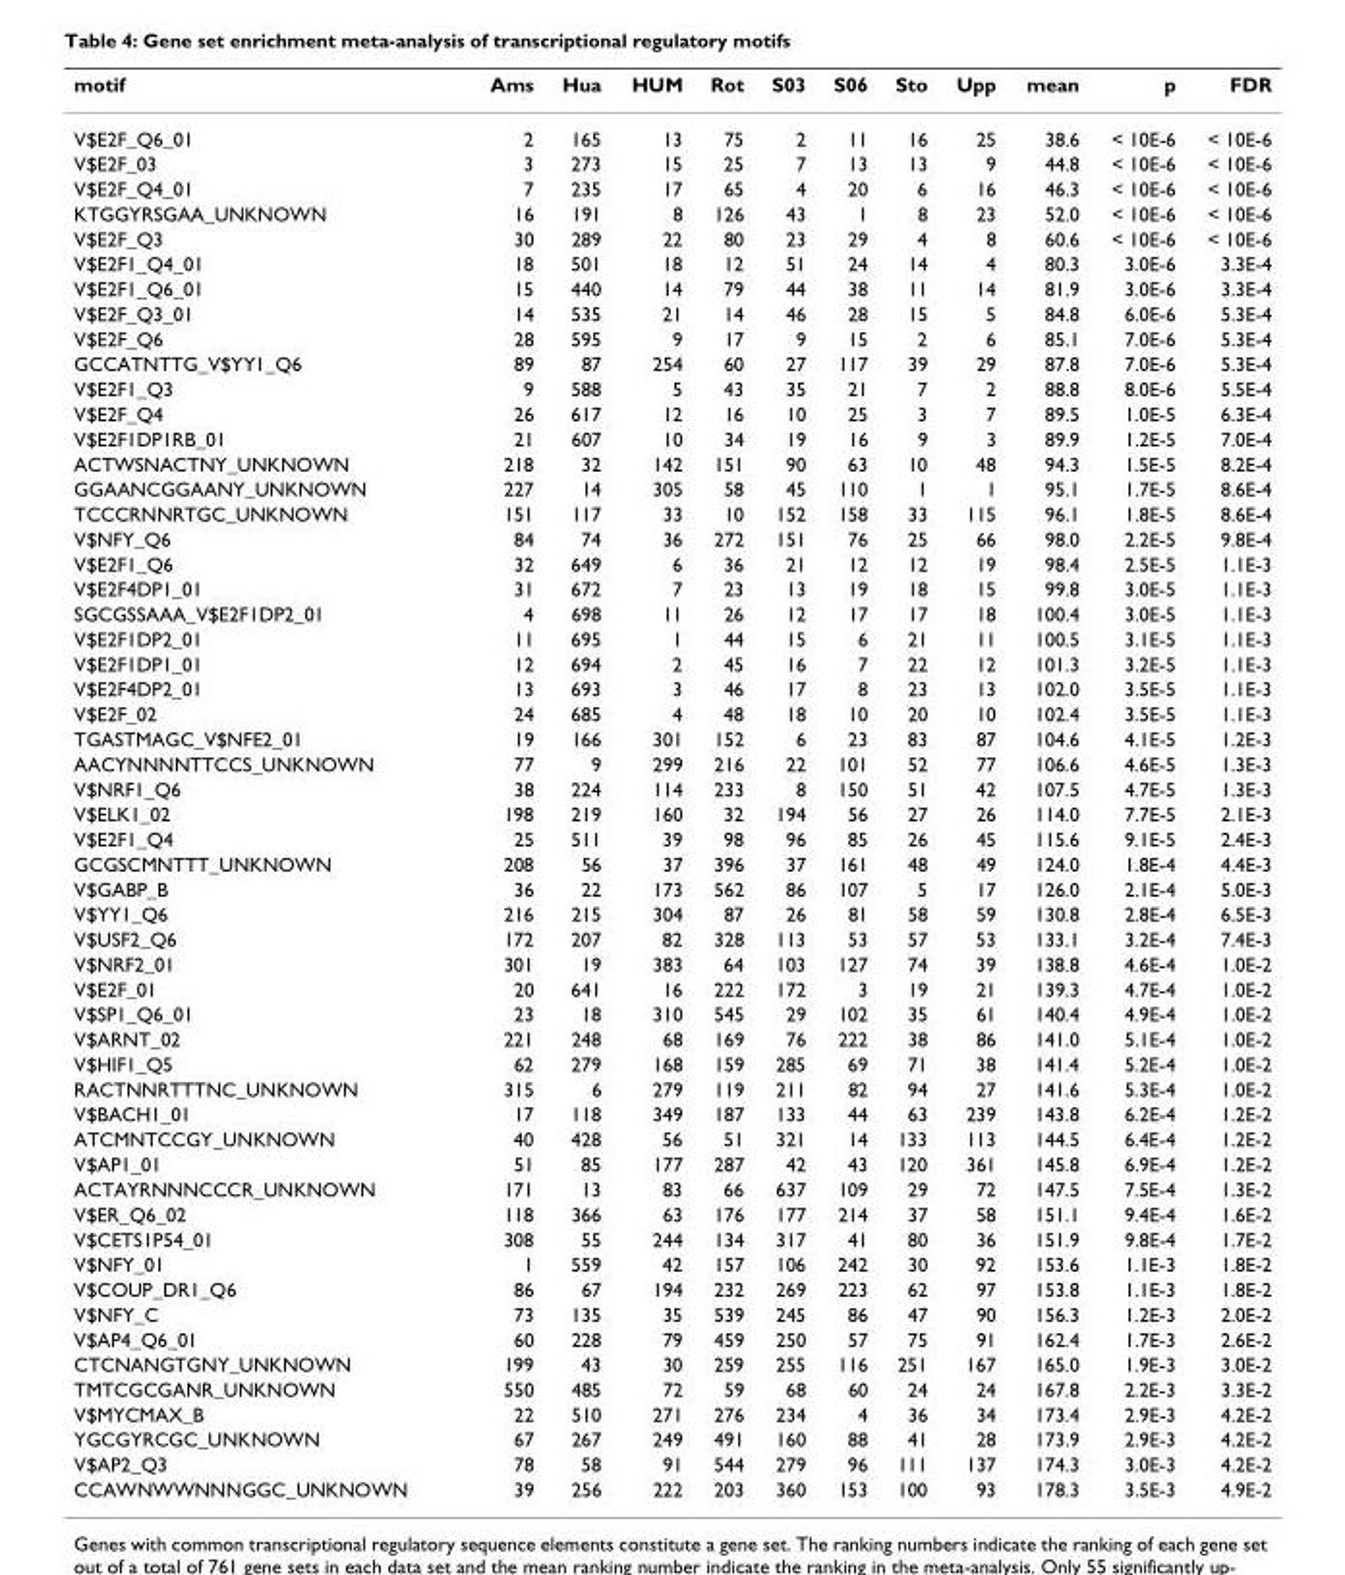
<table><thead><tr><td>motif</td><td>Ams</td><td>Hua</td><td>HUM</td><td>Rot</td><td>S03</td><td>S06</td><td>Sto</td><td>Upp</td><td>mean</td><td>p</td><td>FDR</td></tr></thead><tbody><tr><td>V$E2F_Q6_01</td><td>2</td><td>165</td><td>13</td><td>75</td><td>2</td><td>11</td><td>16</td><td>25</td><td>38.6</td><td>&lt; 10E-6</td><td>&lt; 10E-6</td></tr><tr><td>V$E2F_03</td><td>3</td><td>273</td><td>15</td><td>25</td><td>7</td><td>13</td><td>13</td><td>9</td><td>44.8</td><td>&lt; 10E-6</td><td>&lt; 10E-6</td></tr><tr><td>V$E2F_Q4_01</td><td>7</td><td>235</td><td>17</td><td>65</td><td>4</td><td>20</td><td>6</td><td>16</td><td>46.3</td><td>&lt; 10E-6</td><td>&lt; 10E-6</td></tr><tr><td>KTGGYRSGAA_UNKNOWN</td><td>16</td><td>191</td><td>8</td><td>126</td><td>43</td><td>1</td><td>8</td><td>23</td><td>52.0</td><td>&lt; 10E-6</td><td>&lt; 10E-6</td></tr><tr><td>V$E2F_Q3</td><td>30</td><td>289</td><td>22</td><td>80</td><td>23</td><td>29</td><td>4</td><td>8</td><td>60.6</td><td>&lt; 10E-6</td><td>&lt; 10E-6</td></tr><tr><td>V$E2F1_Q4_01</td><td>18</td><td>501</td><td>18</td><td>12</td><td>51</td><td>24</td><td>14</td><td>4</td><td>80.3</td><td>3.0E-6</td><td>3.3E-4</td></tr><tr><td>V$E2F1_Q6_01</td><td>15</td><td>440</td><td>14</td><td>79</td><td>44</td><td>38</td><td>11</td><td>14</td><td>81.9</td><td>3.0E-6</td><td>3.3E-4</td></tr><tr><td>V$E2F_Q3_01</td><td>14</td><td>535</td><td>21</td><td>14</td><td>46</td><td>28</td><td>15</td><td>5</td><td>84.8</td><td>6.0E-6</td><td>5.3E-4</td></tr><tr><td>V$E2F_Q6</td><td>28</td><td>595</td><td>9</td><td>17</td><td>9</td><td>15</td><td>2</td><td>6</td><td>85.1</td><td>7.0E-6</td><td>5.3E-4</td></tr><tr><td>GCCATNTTG_V$YY1_Q6</td><td>89</td><td>87</td><td>254</td><td>60</td><td>27</td><td>117</td><td>39</td><td>29</td><td>87.8</td><td>7.0E-6</td><td>5.3E-4</td></tr><tr><td>V$E2F1_Q3</td><td>9</td><td>588</td><td>5</td><td>43</td><td>35</td><td>21</td><td>7</td><td>2</td><td>88.8</td><td>8.0E-6</td><td>5.5E-4</td></tr><tr><td>V$E2F_Q4</td><td>26</td><td>617</td><td>12</td><td>16</td><td>10</td><td>25</td><td>3</td><td>7</td><td>89.5</td><td>1.0E-5</td><td>6.3E-4</td></tr><tr><td>V$E2F1DP1RB_01</td><td>21</td><td>607</td><td>10</td><td>34</td><td>19</td><td>16</td><td>9</td><td>3</td><td>89.9</td><td>1.2E-5</td><td>7.0E-4</td></tr><tr><td>ACTWSNACTNY_UNKNOWN</td><td>218</td><td>32</td><td>142</td><td>151</td><td>90</td><td>63</td><td>10</td><td>48</td><td>94.3</td><td>1.5E-5</td><td>8.2E-4</td></tr><tr><td>GGAANCGGAANY_UNKNOWN</td><td>227</td><td>14</td><td>305</td><td>58</td><td>45</td><td>110</td><td>1</td><td>1</td><td>95.1</td><td>1.7E-5</td><td>8.6E-4</td></tr><tr><td>TCCCRNNRTGC_UNKNOWN</td><td>151</td><td>117</td><td>33</td><td>10</td><td>152</td><td>158</td><td>33</td><td>115</td><td>96.1</td><td>1.8E-5</td><td>8.6E-4</td></tr><tr><td>V$NFY_Q6</td><td>84</td><td>74</td><td>36</td><td>272</td><td>151</td><td>76</td><td>25</td><td>66</td><td>98.0</td><td>2.2E-5</td><td>9.8E-4</td></tr><tr><td>V$E2F1_Q6</td><td>32</td><td>649</td><td>6</td><td>36</td><td>21</td><td>12</td><td>12</td><td>19</td><td>98.4</td><td>2.5E-5</td><td>1.1E-3</td></tr><tr><td>V$E2F4DP1_01</td><td>31</td><td>672</td><td>7</td><td>23</td><td>13</td><td>19</td><td>18</td><td>15</td><td>99.8</td><td>3.0E-5</td><td>1.1E-3</td></tr><tr><td>SGCGSSAAA_V$E2F1DP2_01</td><td>4</td><td>698</td><td>11</td><td>26</td><td>12</td><td>17</td><td>17</td><td>18</td><td>100.4</td><td>3.0E-5</td><td>1.1E-3</td></tr><tr><td>V$E2F1DP2_01</td><td>11</td><td>695</td><td>1</td><td>44</td><td>15</td><td>6</td><td>21</td><td>11</td><td>100.5</td><td>3.1E-5</td><td>1.1E-3</td></tr><tr><td>V$E2F1DP1_01</td><td>12</td><td>694</td><td>2</td><td>45</td><td>16</td><td>7</td><td>22</td><td>12</td><td>101.3</td><td>3.2E-5</td><td>1.1E-3</td></tr><tr><td>V$E2F4DP2_01</td><td>13</td><td>693</td><td>3</td><td>46</td><td>17</td><td>8</td><td>23</td><td>13</td><td>102.0</td><td>3.5E-5</td><td>1.1E-3</td></tr><tr><td>V$E2F_02</td><td>24</td><td>685</td><td>4</td><td>48</td><td>18</td><td>10</td><td>20</td><td>10</td><td>102.4</td><td>3.5E-5</td><td>1.1E-3</td></tr><tr><td>TGASTMAGC_V$NFE2_01</td><td>19</td><td>166</td><td>301</td><td>152</td><td>6</td><td>23</td><td>83</td><td>87</td><td>104.6</td><td>4.1E-5</td><td>1.2E-3</td></tr><tr><td>AACYNNNNTTCCS_UNKNOWN</td><td>77</td><td>9</td><td>299</td><td>216</td><td>22</td><td>101</td><td>52</td><td>77</td><td>106.6</td><td>4.6E-5</td><td>1.3E-3</td></tr><tr><td>V$NRF1_Q6</td><td>38</td><td>224</td><td>114</td><td>233</td><td>8</td><td>150</td><td>51</td><td>42</td><td>107.5</td><td>4.7E-5</td><td>1.3E-3</td></tr><tr><td>V$ELK1_02</td><td>198</td><td>219</td><td>160</td><td>32</td><td>194</td><td>56</td><td>27</td><td>26</td><td>114.0</td><td>7.7E-5</td><td>2.1E-3</td></tr><tr><td>V$E2F1_Q4</td><td>25</td><td>511</td><td>39</td><td>98</td><td>96</td><td>85</td><td>26</td><td>45</td><td>115.6</td><td>9.1E-5</td><td>2.4E-3</td></tr><tr><td>GCGSCMNTTT_UNKNOWN</td><td>208</td><td>56</td><td>37</td><td>396</td><td>37</td><td>161</td><td>48</td><td>49</td><td>124.0</td><td>1.8E-4</td><td>4.4E-3</td></tr><tr><td>V$GABP_B</td><td>36</td><td>22</td><td>173</td><td>562</td><td>86</td><td>107</td><td>5</td><td>17</td><td>126.0</td><td>2.1E-4</td><td>5.0E-3</td></tr><tr><td>V$YY1_Q6</td><td>216</td><td>215</td><td>304</td><td>87</td><td>26</td><td>81</td><td>58</td><td>59</td><td>130.8</td><td>2.8E-4</td><td>6.5E-3</td></tr><tr><td>V$USF2_Q6</td><td>172</td><td>207</td><td>82</td><td>328</td><td>113</td><td>53</td><td>57</td><td>53</td><td>133.1</td><td>3.2E-4</td><td>7.4E-3</td></tr><tr><td>V$NRF2_01</td><td>301</td><td>19</td><td>383</td><td>64</td><td>103</td><td>127</td><td>74</td><td>39</td><td>138.8</td><td>4.6E-4</td><td>1.0E-2</td></tr><tr><td>V$E2F_01</td><td>20</td><td>641</td><td>16</td><td>222</td><td>172</td><td>3</td><td>19</td><td>21</td><td>139.3</td><td>4.7E-4</td><td>1.0E-2</td></tr><tr><td>V$SP1_Q6_01</td><td>23</td><td>18</td><td>310</td><td>545</td><td>29</td><td>102</td><td>35</td><td>61</td><td>140.4</td><td>4.9E-4</td><td>1.0E-2</td></tr><tr><td>V$ARNT_02</td><td>221</td><td>248</td><td>68</td><td>169</td><td>76</td><td>222</td><td>38</td><td>86</td><td>141.0</td><td>5.1E-4</td><td>1.0E-2</td></tr><tr><td>V$HIF1_Q5</td><td>62</td><td>279</td><td>168</td><td>159</td><td>285</td><td>69</td><td>71</td><td>38</td><td>141.4</td><td>5.2E-4</td><td>1.0E-2</td></tr><tr><td>RACTNNRTTTNC_UNKNOWN</td><td>315</td><td>6</td><td>279</td><td>119</td><td>211</td><td>82</td><td>94</td><td>27</td><td>141.6</td><td>5.3E-4</td><td>1.0E-2</td></tr><tr><td>V$BACH1_01</td><td>17</td><td>118</td><td>349</td><td>187</td><td>133</td><td>44</td><td>63</td><td>239</td><td>143.8</td><td>6.2E-4</td><td>1.2E-2</td></tr><tr><td>ATCMNTCCGY_UNKNOWN</td><td>40</td><td>428</td><td>56</td><td>51</td><td>321</td><td>14</td><td>133</td><td>113</td><td>144.5</td><td>6.4E-4</td><td>1.2E-2</td></tr><tr><td>V$AP1_01</td><td>51</td><td>85</td><td>177</td><td>287</td><td>42</td><td>43</td><td>120</td><td>361</td><td>145.8</td><td>6.9E-4</td><td>1.2E-2</td></tr><tr><td>ACTAYRNNNCCCR_UNKNOWN</td><td>171</td><td>13</td><td>83</td><td>66</td><td>637</td><td>109</td><td>29</td><td>72</td><td>147.5</td><td>7.5E-4</td><td>1.3E-2</td></tr><tr><td>V$ER_Q6_02</td><td>118</td><td>366</td><td>63</td><td>176</td><td>177</td><td>214</td><td>37</td><td>58</td><td>151.1</td><td>9.4E-4</td><td>1.6E-2</td></tr><tr><td>V$CETS1P54_01</td><td>308</td><td>55</td><td>244</td><td>134</td><td>317</td><td>41</td><td>80</td><td>36</td><td>151.9</td><td>9.8E-4</td><td>1.7E-2</td></tr><tr><td>V$NFY_01</td><td>1</td><td>559</td><td>42</td><td>157</td><td>106</td><td>242</td><td>30</td><td>92</td><td>153.6</td><td>1.1E-3</td><td>1.8E-2</td></tr><tr><td>V$COUP_DR1_Q6</td><td>86</td><td>67</td><td>194</td><td>232</td><td>269</td><td>223</td><td>62</td><td>97</td><td>153.8</td><td>1.1E-3</td><td>1.8E-2</td></tr><tr><td>V$NFY_C</td><td>73</td><td>135</td><td>35</td><td>539</td><td>245</td><td>86</td><td>47</td><td>90</td><td>156.3</td><td>1.2E-3</td><td>2.0E-2</td></tr><tr><td>V$AP4_Q6_01</td><td>60</td><td>228</td><td>79</td><td>459</td><td>250</td><td>57</td><td>75</td><td>91</td><td>162.4</td><td>1.7E-3</td><td>2.6E-2</td></tr><tr><td>CTCNANGTGNY_UNKNOWN</td><td>199</td><td>43</td><td>30</td><td>259</td><td>255</td><td>116</td><td>251</td><td>167</td><td>165.0</td><td>1.9E-3</td><td>3.0E-2</td></tr><tr><td>TMTCGCGANR_UNKNOWN</td><td>550</td><td>485</td><td>72</td><td>59</td><td>68</td><td>60</td><td>24</td><td>24</td><td>167.8</td><td>2.2E-3</td><td>3.3E-2</td></tr><tr><td>V$MYCMAX_B</td><td>22</td><td>510</td><td>271</td><td>276</td><td>234</td><td>4</td><td>36</td><td>34</td><td>173.4</td><td>2.9E-3</td><td>4.2E-2</td></tr><tr><td>YGCGYRCGC_UNKNOWN</td><td>67</td><td>267</td><td>249</td><td>491</td><td>160</td><td>88</td><td>41</td><td>28</td><td>173.9</td><td>2.9E-3</td><td>4.2E-2</td></tr><tr><td>V$AP2_Q3</td><td>78</td><td>58</td><td>91</td><td>544</td><td>279</td><td>96</td><td>111</td><td>137</td><td>174.3</td><td>3.0E-3</td><td>4.2E-2</td></tr><tr><td>CCAWNWWNNNGGC_UNKNOWN</td><td>39</td><td>256</td><td>222</td><td>203</td><td>360</td><td>153</td><td>100</td><td>93</td><td>178.3</td><td>3.5E-3</td><td>4.9E-2</td></tr></tbody></table>